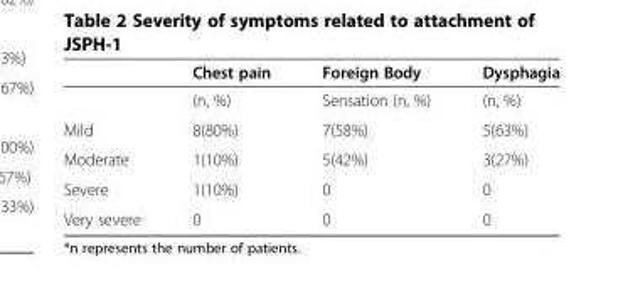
<table><thead><tr><td></td><td>Chest pain</td><td>Foreign Body</td><td>Dysphagia</td></tr></thead><tbody><tr><td></td><td>(n, %)</td><td>Sensation (n, %)</td><td>(n, %)</td></tr><tr><td>Mild</td><td>8(80%)</td><td>7(58%)</td><td>5(63%)</td></tr><tr><td>Moderate</td><td>1(10%)</td><td>5(42%)</td><td>3(27%)</td></tr><tr><td>Severe</td><td>1(10%)</td><td>0</td><td>0</td></tr><tr><td>Very severe</td><td>0</td><td>0</td><td>0</td></tr></tbody></table>